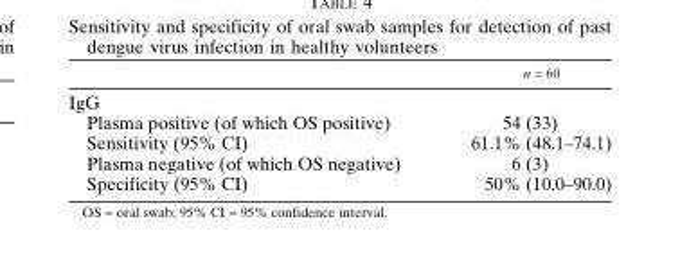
<table><thead><tr><td></td><td>n = 60</td></tr></thead><tbody><tr><td colspan="2">IgG</td></tr><tr><td>Plasma positive (of which OS positive)</td><td>54 (33)</td></tr><tr><td>Sensitivity (95% CI)</td><td>61.1% (48.1–74.1)</td></tr><tr><td>Plasma negative (of which OS negative)</td><td>6 (3)</td></tr><tr><td>Specificity (95% CI)</td><td>50% (10.0–90.0)</td></tr></tbody></table>